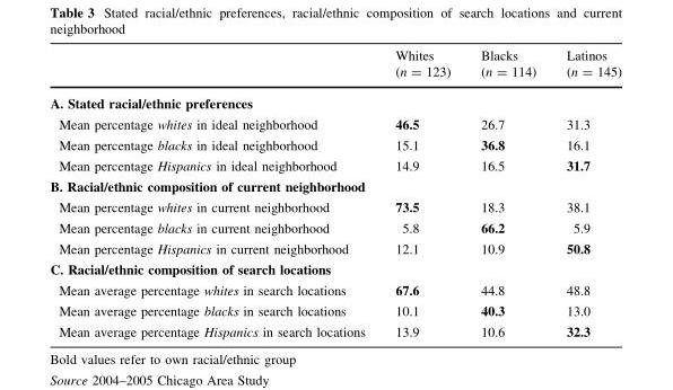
<table><thead><tr><td></td><td>Whites (n = 123)</td><td>Blacks (n = 114)</td><td>Latinos (n = 145)</td></tr></thead><tbody><tr><td colspan="4">A. Stated racial/ethnic preferences</td></tr><tr><td>Mean percentage whites in ideal neighborhood</td><td>46.5</td><td>26.7</td><td>31.3</td></tr><tr><td>Mean percentage blacks in ideal neighborhood</td><td>15.1</td><td>36.8</td><td>16.1</td></tr><tr><td>Mean percentage Hispanics in ideal neighborhood</td><td>14.9</td><td>16.5</td><td>31.7</td></tr><tr><td colspan="4">B. Racial/ethnic composition of current neighborhood</td></tr><tr><td>Mean percentage whites in current neighborhood</td><td>73.5</td><td>18.3</td><td>38.1</td></tr><tr><td>Mean percentage blacks in current neighborhood</td><td>5.8</td><td>66.2</td><td>5.9</td></tr><tr><td>Mean percentage Hispanics in current neighborhood</td><td>12.1</td><td>10.9</td><td>50.8</td></tr><tr><td colspan="4">C. Racial/ethnic composition of search locations</td></tr><tr><td>Mean average percentage whites in search locations</td><td>67.6</td><td>44.8</td><td>48.8</td></tr><tr><td>Mean average percentage blacks in search locations</td><td>10.1</td><td>40.3</td><td>13.0</td></tr><tr><td>Mean average percentage Hispanics in search locations</td><td>13.9</td><td>10.6</td><td>32.3</td></tr></tbody></table>